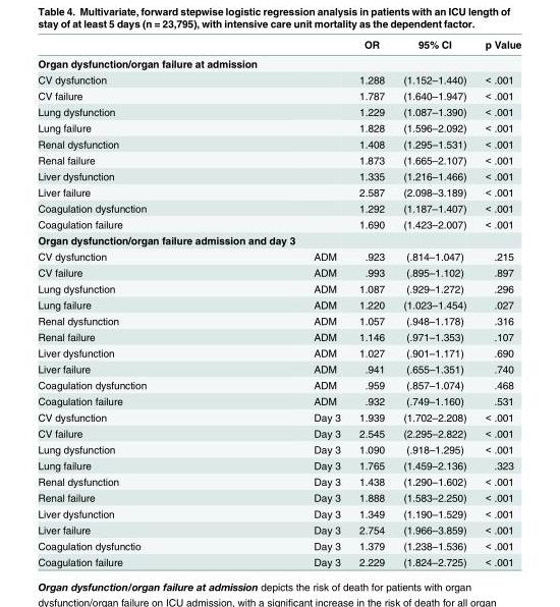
<table><thead><tr><td></td><td></td><td>OR</td><td>95% CI</td><td>p Value</td></tr></thead><tbody><tr><td colspan="5">Organ dysfunction/organ failure at admission</td></tr><tr><td>CV dysfunction</td><td></td><td>1.288</td><td>(1.152–1.440)</td><td>&lt; .001</td></tr><tr><td>CV failure</td><td></td><td>1.787</td><td>(1.640–1.947)</td><td>&lt; .001</td></tr><tr><td>Lung dysfunction</td><td></td><td>1.229</td><td>(1.087–1.390)</td><td>&lt; .001</td></tr><tr><td>Lung failure</td><td></td><td>1.828</td><td>(1.596–2.092)</td><td>&lt; .001</td></tr><tr><td>Renal dysfunction</td><td></td><td>1.408</td><td>(1.295–1.531)</td><td>&lt; .001</td></tr><tr><td>Renal failure</td><td></td><td>1.873</td><td>(1.665–2.107)</td><td>&lt; .001</td></tr><tr><td>Liver dysfunction</td><td></td><td>1.335</td><td>(1.216–1.466)</td><td>&lt; .001</td></tr><tr><td>Liver failure</td><td></td><td>2.587</td><td>(2.098–3.189)</td><td>&lt; .001</td></tr><tr><td>Coagulation dysfunction</td><td></td><td>1.292</td><td>(1.187–1.407)</td><td>&lt; .001</td></tr><tr><td>Coagulation failure</td><td></td><td>1.690</td><td>(1.423–2.007)</td><td>&lt; .001</td></tr><tr><td colspan="5">Organ dysfunction/organ failure admission and day 3</td></tr><tr><td>CV dysfunction</td><td>ADM</td><td>.923</td><td>(.814–1.047)</td><td>.215</td></tr><tr><td>CV failure</td><td>ADM</td><td>.993</td><td>(.895–1.102)</td><td>.897</td></tr><tr><td>Lung dysfunction</td><td>ADM</td><td>1.087</td><td>(.929–1.272)</td><td>.296</td></tr><tr><td>Lung failure</td><td>ADM</td><td>1.220</td><td>(1.023–1.454)</td><td>.027</td></tr><tr><td>Renal dysfunction</td><td>ADM</td><td>1.057</td><td>(.948–1.178)</td><td>.316</td></tr><tr><td>Renal failure</td><td>ADM</td><td>1.146</td><td>(.971–1.353)</td><td>.107</td></tr><tr><td>Liver dysfunction</td><td>ADM</td><td>1.027</td><td>(.901–1.171)</td><td>.690</td></tr><tr><td>Liver failure</td><td>ADM</td><td>.941</td><td>(.655–1.351)</td><td>.740</td></tr><tr><td>Coagulation dysfunction</td><td>ADM</td><td>.959</td><td>(.857–1.074)</td><td>.468</td></tr><tr><td>Coagulation failure</td><td>ADM</td><td>.932</td><td>(.749–1.160)</td><td>.531</td></tr><tr><td>CV dysfunction</td><td>Day 3</td><td>1.939</td><td>(1.702–2.208)</td><td>&lt; .001</td></tr><tr><td>CV failure</td><td>Day 3</td><td>2.545</td><td>(2.295–2.822)</td><td>&lt; .001</td></tr><tr><td>Lung dysfunction</td><td>Day 3</td><td>1.090</td><td>(.918–1.295)</td><td>&lt; .001</td></tr><tr><td>Lung failure</td><td>Day 3</td><td>1.765</td><td>(1.459–2.136)</td><td>.323</td></tr><tr><td>Renal dysfunction</td><td>Day 3</td><td>1.438</td><td>(1.290–1.602)</td><td>&lt; .001</td></tr><tr><td>Renal failure</td><td>Day 3</td><td>1.888</td><td>(1.583–2.250)</td><td>&lt; .001</td></tr><tr><td>Liver dysfunction</td><td>Day 3</td><td>1.349</td><td>(1.190–1.529)</td><td>&lt; .001</td></tr><tr><td>Liver failure</td><td>Day 3</td><td>2.754</td><td>(1.966–3.859)</td><td>&lt; .001</td></tr><tr><td>Coagulation dysfunctio</td><td>Day 3</td><td>1.379</td><td>(1.238–1.536)</td><td>&lt; .001</td></tr><tr><td>Coagulation failure</td><td>Day 3</td><td>2.229</td><td>(1.824–2.725)</td><td>&lt; .001</td></tr></tbody></table>